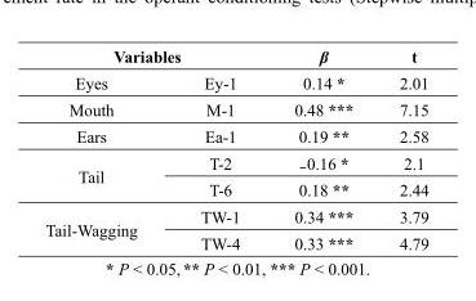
<table><thead><tr><td colspan="2">Variables</td><td rowspan="2">β 0.14 *</td><td rowspan="2">t 2.01</td></tr><tr><td>Eyes</td><td>Ey-1</td></tr></thead><tbody><tr><td>Mouth</td><td>M-1</td><td>0.48 ***</td><td>7.15</td></tr><tr><td>Ears</td><td>Ea-1</td><td>0.19 **</td><td>2.58</td></tr><tr><td rowspan="2">Tail</td><td>T-2</td><td>-0.16 *</td><td>2.1</td></tr><tr><td>T-6</td><td>0.18 **</td><td>2.44</td></tr><tr><td rowspan="2">Tail-Wagging</td><td>TW-1</td><td>0.34 ***</td><td>3.79</td></tr><tr><td>TW-4</td><td>0.33 ***</td><td>4.79</td></tr></tbody></table>